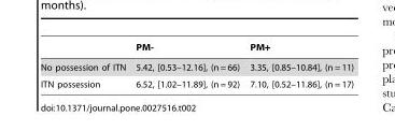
<table><thead><tr><td></td><td>PM-</td><td>PM+</td></tr></thead><tbody><tr><td>No possession of ITN</td><td>5.42, [0.53–12.16], (n = 66)</td><td>3.35, [0.85–10.84], (n = 11)</td></tr><tr><td>ITN possession</td><td>6.52, [1.02–11.89], (n = 92)</td><td>7.10, [0.52–11.86], (n = 17)</td></tr></tbody></table>